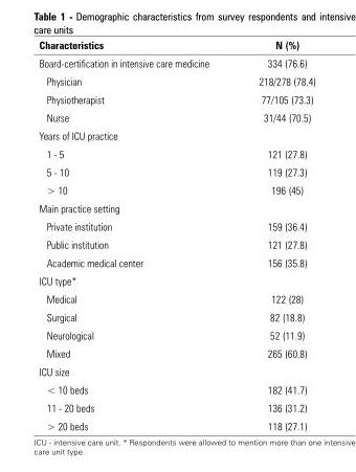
<table><thead><tr><td>Characteristics</td><td>N (%)</td></tr></thead><tbody><tr><td>Board-certification in intensive care medicine</td><td>334 (76.6)</td></tr><tr><td>Physician</td><td>218/278 (78.4)</td></tr><tr><td>Physiotherapist</td><td>77/105 (73.3)</td></tr><tr><td>Nurse</td><td>31/44 (70.5)</td></tr><tr><td colspan="2">Years of ICU practice</td></tr><tr><td>1 - 5</td><td>121 (27.8)</td></tr><tr><td>5 - 10</td><td>119 (27.3)</td></tr><tr><td>&gt; 10</td><td>196 (45)</td></tr><tr><td colspan="2">Main practice setting</td></tr><tr><td>Private institution</td><td>159 (36.4)</td></tr><tr><td>Public institution</td><td>121 (27.8)</td></tr><tr><td>Academic medical center</td><td>156 (35.8)</td></tr><tr><td colspan="2">ICU type*</td></tr><tr><td>Medical</td><td>122 (28)</td></tr><tr><td>Surgical</td><td>82 (18.8)</td></tr><tr><td>Neurological</td><td>52 (11.9)</td></tr><tr><td>Mixed</td><td>265 (60.8)</td></tr><tr><td colspan="2">ICU size</td></tr><tr><td>&lt; 10 beds</td><td>182 (41.7)</td></tr><tr><td>11 - 20 beds</td><td>136 (31.2)</td></tr><tr><td>&gt; 20 beds</td><td>118 (27.1)</td></tr></tbody></table>